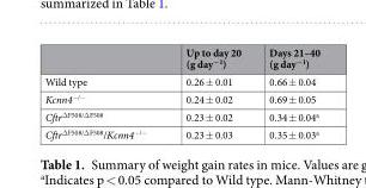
<table><thead><tr><td></td><td>Up to day 20 (g day<sup>−1</sup>)</td><td>Days 21–40 (g day<sup>−1</sup>)</td></tr></thead><tbody><tr><td>Wild type</td><td>0.26 ± 0.01</td><td>0.66 ± 0.04</td></tr><tr><td>Kcnn4<sup>−/−</sup></td><td>0.24 ± 0.02</td><td>0.69 ± 0.05</td></tr><tr><td>Cftr<sup>ΔF508/ΔF508</sup></td><td>0.23 ± 0.02</td><td>0.34 ± 0.04<sup>a</sup></td></tr><tr><td>Cftr<sup>ΔF508/ΔF508</sup>/Kcnn4<sup>−/−</sup></td><td>0.23 ± 0.03</td><td>0.35 ± 0.03<sup>a</sup></td></tr></tbody></table>